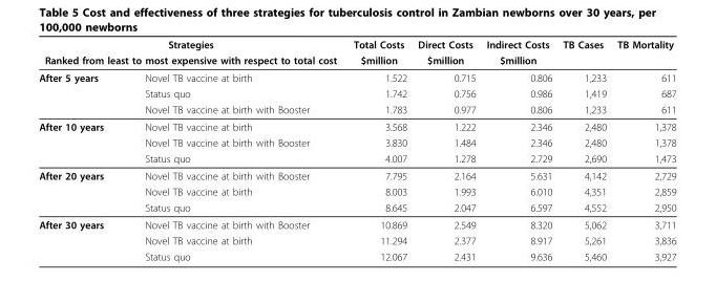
<table><thead><tr><td rowspan="2" colspan="2">Strategies Ranked from least to most expensive with respect to total cost</td><td rowspan="3">Total Costs $million 1.522</td><td rowspan="3">Direct Costs $million 0.715</td><td rowspan="3">Indirect Costs $million 0.806</td><td rowspan="3">TB Cases 1,233</td><td rowspan="3">TB Mortality 611</td></tr><tr></tr><tr><td>After 5 years</td><td>Novel TB vaccine at birth</td></tr></thead><tbody><tr><td></td><td>Status quo</td><td>1.742</td><td>0.756</td><td>0.986</td><td>1,419</td><td>687</td></tr><tr><td></td><td>Novel TB vaccine at birth with Booster</td><td>1.783</td><td>0.977</td><td>0.806</td><td>1,233</td><td>611</td></tr><tr><td rowspan="3">After 10 years</td><td>Novel TB vaccine at birth</td><td>3.568</td><td>1.222</td><td>2.346</td><td>2,480</td><td>1,378</td></tr><tr><td>Novel TB vaccine at birth with Booster</td><td>3.830</td><td>1.484</td><td>2.346</td><td>2,480</td><td>1,378</td></tr><tr><td>Status quo</td><td>4.007</td><td>1.278</td><td>2.729</td><td>2,690</td><td>1,473</td></tr><tr><td rowspan="3">After 20 years</td><td>Novel TB vaccine at birth with Booster</td><td>7.795</td><td>2.164</td><td>5.631</td><td>4,142</td><td>2,729</td></tr><tr><td>Novel TB vaccine at birth</td><td>8.003</td><td>1.993</td><td>6.010</td><td>4,351</td><td>2,859</td></tr><tr><td>Status quo</td><td>8.645</td><td>2.047</td><td>6.597</td><td>4,552</td><td>2,950</td></tr><tr><td rowspan="3">After 30 years</td><td>Novel TB vaccine at birth with Booster</td><td>10.869</td><td>2.549</td><td>8.320</td><td>5,062</td><td>3,711</td></tr><tr><td>Novel TB vaccine at birth</td><td>11.294</td><td>2.377</td><td>8.917</td><td>5,261</td><td>3,836</td></tr><tr><td>Status quo</td><td>12.067</td><td>2.431</td><td>9.636</td><td>5,460</td><td>3,927</td></tr></tbody></table>